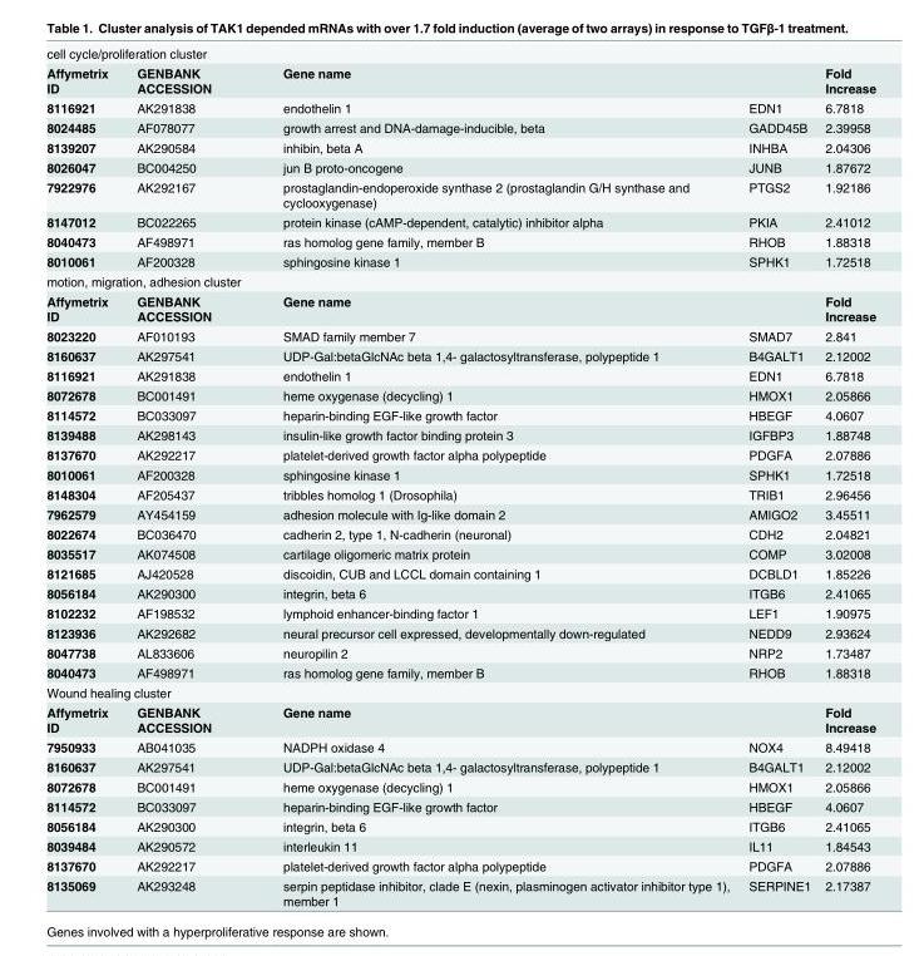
<table><tbody><tr><td colspan="5">cell cycle/proliferation cluster</td></tr><tr><td>Affymetrix ID</td><td>GENBANK ACCESSION</td><td>Gene name</td><td></td><td>Fold Increase</td></tr><tr><td>8116921</td><td>AK291838</td><td>endothelin 1</td><td>EDN1</td><td>6.7818</td></tr><tr><td>8024485</td><td>AF078077</td><td>growth arrest and DNA-damage-inducible, beta</td><td>GADD45B</td><td>2.39958</td></tr><tr><td>8139207</td><td>AK290584</td><td>inhibin, beta A</td><td>INHBA</td><td>2.04306</td></tr><tr><td>8026047</td><td>BC004250</td><td>jun B proto-oncogene</td><td>JUNB</td><td>1.87672</td></tr><tr><td>7922976</td><td>AK292167</td><td>prostaglandin-endoperoxide synthase 2 (prostaglandin G/H synthase and cyclooxygenase)</td><td>PTGS2</td><td>1.92186</td></tr><tr><td>8147012</td><td>BC022265</td><td>protein kinase (cAMP-dependent, catalytic) inhibitor alpha</td><td>PKIA</td><td>2.41012</td></tr><tr><td>8040473</td><td>AF498971</td><td>ras homolog gene family, member B</td><td>RHOB</td><td>1.88318</td></tr><tr><td>8010061</td><td>AF200328</td><td>sphingosine kinase 1</td><td>SPHK1</td><td>1.72518</td></tr><tr><td colspan="5">motion, migration, adhesion cluster</td></tr><tr><td>Affymetrix ID</td><td>GENBANK ACCESSION</td><td>Gene name</td><td></td><td>Fold Increase</td></tr><tr><td>8023220</td><td>AF010193</td><td>SMAD family member 7</td><td>SMAD7</td><td>2.841</td></tr><tr><td>8160637</td><td>AK297541</td><td>UDP-Gal:betaGlcNAc beta 1,4- galactosyltransferase, polypeptide 1</td><td>B4GALT1</td><td>2.12002</td></tr><tr><td>8116921</td><td>AK291838</td><td>endothelin 1</td><td>EDN1</td><td>6.7818</td></tr><tr><td>8072678</td><td>BC001491</td><td>heme oxygenase (decycling) 1</td><td>HMOX1</td><td>2.05866</td></tr><tr><td>8114572</td><td>BC033097</td><td>heparin-binding EGF-like growth factor</td><td>HBEGF</td><td>4.0607</td></tr><tr><td>8139488</td><td>AK298143</td><td>insulin-like growth factor binding protein 3</td><td>IGFBP3</td><td>1.88748</td></tr><tr><td>8137670</td><td>AK292217</td><td>platelet-derived growth factor alpha polypeptide</td><td>PDGFA</td><td>2.07886</td></tr><tr><td>8010061</td><td>AF200328</td><td>sphingosine kinase 1</td><td>SPHK1</td><td>1.72518</td></tr><tr><td>8148304</td><td>AF205437</td><td>tribbles homolog 1 (Drosophila)</td><td>TRIB1</td><td>2.96456</td></tr><tr><td>7962579</td><td>AY454159</td><td>adhesion molecule with Ig-like domain 2</td><td>AMIGO2</td><td>3.45511</td></tr><tr><td>8022674</td><td>BC036470</td><td>cadherin 2, type 1, N-cadherin (neuronal)</td><td>CDH2</td><td>2.04821</td></tr><tr><td>8035517</td><td>AK074508</td><td>cartilage oligomeric matrix protein</td><td>COMP</td><td>3.02008</td></tr><tr><td>8121685</td><td>AJ420528</td><td>discoidin, CUB and LCCL domain containing 1</td><td>DCBLD1</td><td>1.85226</td></tr><tr><td>8056184</td><td>AK290300</td><td>integrin, beta 6</td><td>ITGB6</td><td>2.41065</td></tr><tr><td>8102232</td><td>AF198532</td><td>lymphoid enhancer-binding factor 1</td><td>LEF1</td><td>1.90975</td></tr><tr><td>8123936</td><td>AK292682</td><td>neural precursor cell expressed, developmentally down-regulated</td><td>NEDD9</td><td>2.93624</td></tr><tr><td>8047738</td><td>AL833606</td><td>neuropilin 2</td><td>NRP2</td><td>1.73487</td></tr><tr><td>8040473</td><td>AF498971</td><td>ras homolog gene family, member B</td><td>RHOB</td><td>1.88318</td></tr><tr><td colspan="5">Wound healing cluster</td></tr><tr><td>Affymetrix ID</td><td>GENBANK ACCESSION</td><td>Gene name</td><td></td><td>Fold Increase</td></tr><tr><td>7950933</td><td>AB041035</td><td>NADPH oxidase 4</td><td>NOX4</td><td>8.49418</td></tr><tr><td>8160637</td><td>AK297541</td><td>UDP-Gal:betaGlcNAc beta 1,4- galactosyltransferase, polypeptide 1</td><td>B4GALT1</td><td>2.12002</td></tr><tr><td>8072678</td><td>BC001491</td><td>heme oxygenase (decycling) 1</td><td>HMOX1</td><td>2.05866</td></tr><tr><td>8114572</td><td>BC033097</td><td>heparin-binding EGF-like growth factor</td><td>HBEGF</td><td>4.0607</td></tr><tr><td>8056184</td><td>AK290300</td><td>integrin, beta 6</td><td>ITGB6</td><td>2.41065</td></tr><tr><td>8039484</td><td>AK290572</td><td>interleukin 11</td><td>IL11</td><td>1.84543</td></tr><tr><td>8137670</td><td>AK292217</td><td>platelet-derived growth factor alpha polypeptide</td><td>PDGFA</td><td>2.07886</td></tr><tr><td>8135069</td><td>AK293248</td><td>serpin peptidase inhibitor, clade E (nexin, plasminogen activator inhibitor type 1), member 1</td><td>SERPINE1</td><td>2.17387</td></tr></tbody></table>